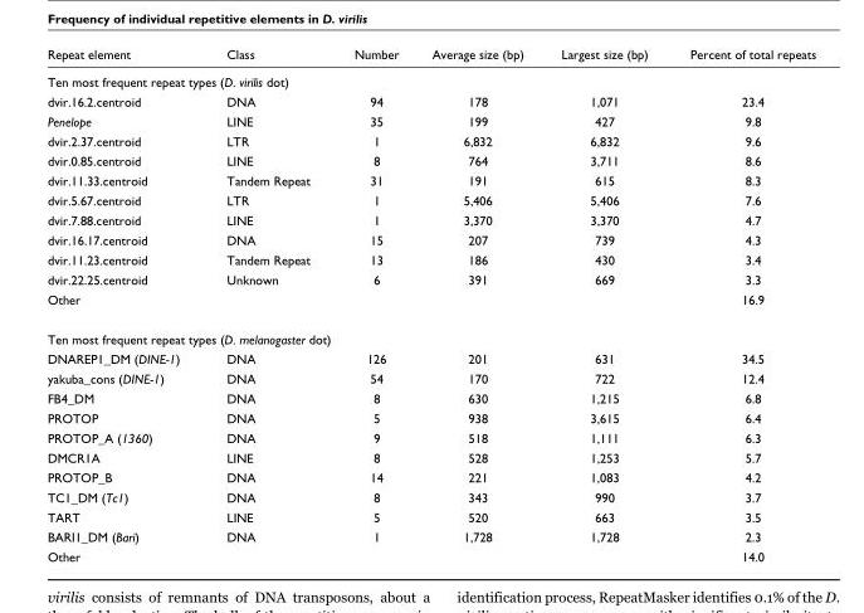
<table><thead><tr><td>Repeat element</td><td>Class</td><td>Number</td><td>Average size (bp)</td><td>Largest size (bp)</td><td>Percent of total repeats</td></tr></thead><tbody><tr><td colspan="6">Ten most frequent repeat types (D. virilis dot)</td></tr><tr><td>dvir.16.2.centroid</td><td>DNA</td><td>94</td><td>178</td><td>1,071</td><td>23.4</td></tr><tr><td>Penelope</td><td>LINE</td><td>35</td><td>199</td><td>427</td><td>9.8</td></tr><tr><td>dvir.2.37.centroid</td><td>LTR</td><td>1</td><td>6,832</td><td>6,832</td><td>9.6</td></tr><tr><td>dvir.0.85.centroid</td><td>LINE</td><td>8</td><td>764</td><td>3,711</td><td>8.6</td></tr><tr><td>dvir.11.33.centroid</td><td>Tandem Repeat</td><td>31</td><td>191</td><td>615</td><td>8.3</td></tr><tr><td>dvir.5.67.centroid</td><td>LTR</td><td>1</td><td>5,406</td><td>5,406</td><td>7.6</td></tr><tr><td>dvir.7.88.centroid</td><td>LINE</td><td>1</td><td>3,370</td><td>3,370</td><td>4.7</td></tr><tr><td>dvir.16.17.centroid</td><td>DNA</td><td>15</td><td>207</td><td>739</td><td>4.3</td></tr><tr><td>dvir.11.23.centroid</td><td>Tandem Repeat</td><td>13</td><td>186</td><td>430</td><td>3.4</td></tr><tr><td>dvir.22.25.centroid</td><td>Unknown</td><td>6</td><td>391</td><td>669</td><td>3.3</td></tr><tr><td>Other</td><td></td><td></td><td></td><td></td><td>16.9</td></tr><tr><td colspan="6">Ten most frequent repeat types (D. melanogaster dot)</td></tr><tr><td>DNAREP1_DM (DINE-1)</td><td>DNA</td><td>126</td><td>201</td><td>631</td><td>34.5</td></tr><tr><td>yakuba_cons (DINE-1)</td><td>DNA</td><td>54</td><td>170</td><td>722</td><td>12.4</td></tr><tr><td>FB4_DM</td><td>DNA</td><td>8</td><td>630</td><td>1,215</td><td>6.8</td></tr><tr><td>PROTOP</td><td>DNA</td><td>5</td><td>938</td><td>3,615</td><td>6.4</td></tr><tr><td>PROTOP_A (1360)</td><td>DNA</td><td>9</td><td>518</td><td>1,111</td><td>6.3</td></tr><tr><td>DMCR1A</td><td>LINE</td><td>8</td><td>528</td><td>1,253</td><td>5.7</td></tr><tr><td>PROTOP_B</td><td>DNA</td><td>14</td><td>221</td><td>1,083</td><td>4.2</td></tr><tr><td>TC1_DM (Tc1)</td><td>DNA</td><td>8</td><td>343</td><td>990</td><td>3.7</td></tr><tr><td>TART</td><td>LINE</td><td>5</td><td>520</td><td>663</td><td>3.5</td></tr><tr><td>BARI1_DM (Bari)</td><td>DNA</td><td>1</td><td>1,728</td><td>1,728</td><td>2.3</td></tr><tr><td>Other</td><td></td><td></td><td></td><td></td><td>14.0</td></tr></tbody></table>